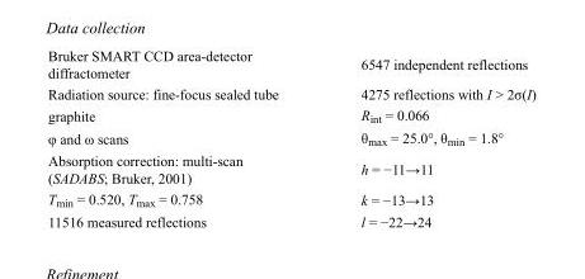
<table><tbody><tr><td>Bruker SMART CCD area-detector diffractometer</td><td>6547 independent reflections</td></tr><tr><td>Radiation source: fine-focus sealed tube</td><td>4275 reflections with I &gt; 2σ(I)</td></tr><tr><td>graphite</td><td>R<sub>int</sub> = 0.066</td></tr><tr><td>φ and ω scans</td><td>θ<sub>max</sub> = 25.0°, θ<sub>min</sub> = 1.8°</td></tr><tr><td>Absorption correction: multi-scan (SADABS; Bruker, 2001)</td><td>h = −11→11</td></tr><tr><td>T<sub>min</sub> = 0.520, T<sub>max</sub> = 0.758</td><td>k = −13→13</td></tr><tr><td>11516 measured reflections</td><td>l = −22→24</td></tr></tbody></table>